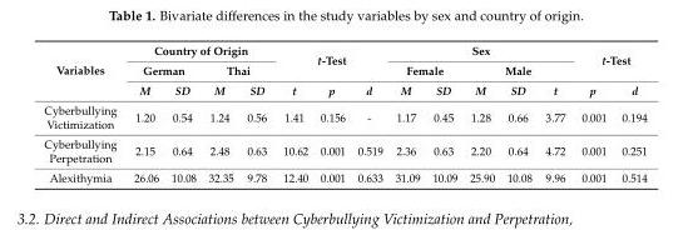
<table><thead><tr><td rowspan="3">Variables</td><td colspan="4">Country of Origin</td><td rowspan="2" colspan="3">t-Test</td><td colspan="5">Sex</td><td rowspan="2" colspan="2">t-Test</td></tr><tr><td colspan="2">German</td><td colspan="2">Thai</td><td colspan="2">Female</td><td colspan="3">Male</td></tr><tr><td>M</td><td>SD</td><td>M</td><td>SD</td><td>t</td><td>p</td><td>d</td><td>M</td><td>SD</td><td>M</td><td>SD</td><td>t</td><td>p</td><td>d</td></tr></thead><tbody><tr><td>Cyberbullying Victimization</td><td>1.20</td><td>0.54</td><td>1.24</td><td>0.56</td><td>1.41</td><td>0.156</td><td>-</td><td>1.17</td><td>0.45</td><td>1.28</td><td>0.66</td><td>3.77</td><td>0.001</td><td>0.194</td></tr><tr><td>Cyberbullying Perpetration</td><td>2.15</td><td>0.64</td><td>2.48</td><td>0.63</td><td>10.62</td><td>0.001</td><td>0.519</td><td>2.36</td><td>0.63</td><td>2.20</td><td>0.64</td><td>4.72</td><td>0.001</td><td>0.251</td></tr><tr><td>Alexithymia</td><td>26.06</td><td>10.08</td><td>32.35</td><td>9.78</td><td>12.40</td><td>0.001</td><td>0.633</td><td>31.09</td><td>10.09</td><td>25.90</td><td>10.08</td><td>9.96</td><td>0.001</td><td>0.514</td></tr></tbody></table>